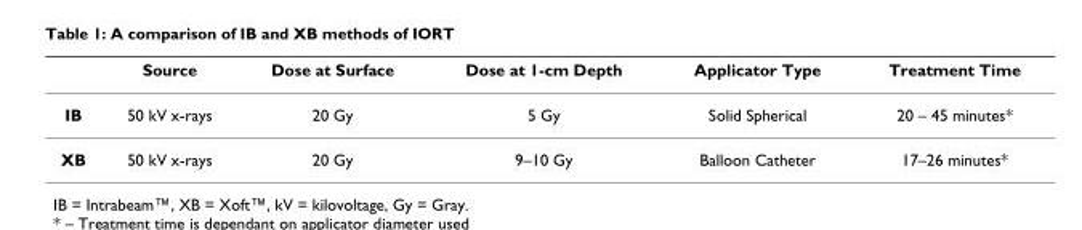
<table><thead><tr><td></td><td>Source</td><td>Dose at Surface</td><td>Dose at 1-cm Depth</td><td>Applicator Type</td><td>Treatment Time</td></tr></thead><tbody><tr><td>IB</td><td>50 kV x-rays</td><td>20 Gy</td><td>5 Gy</td><td>Solid Spherical</td><td>20 – 45 minutes*</td></tr><tr><td>XB</td><td>50 kV x-rays</td><td>20 Gy</td><td>9–10 Gy</td><td>Balloon Catheter</td><td>17–26 minutes*</td></tr></tbody></table>